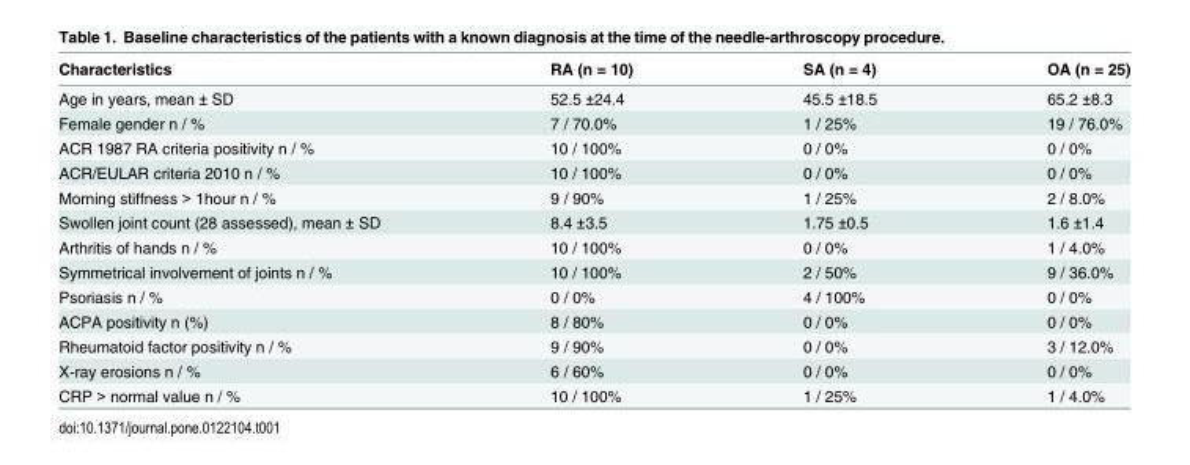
<table><thead><tr><td>Characteristics</td><td>RA (n = 10)</td><td>SA (n = 4)</td><td>OA (n = 25)</td></tr></thead><tbody><tr><td>Age in years, mean ± SD</td><td>52.5 ±24.4</td><td>45.5 ±18.5</td><td>65.2 ±8.3</td></tr><tr><td>Female gender n / %</td><td>7 / 70.0%</td><td>1 / 25%</td><td>19 / 76.0%</td></tr><tr><td>ACR 1987 RA criteria positivity n / %</td><td>10 / 100%</td><td>0 / 0%</td><td>0 / 0%</td></tr><tr><td>ACR/EULAR criteria 2010 n / %</td><td>10 / 100%</td><td>0 / 0%</td><td>0 / 0%</td></tr><tr><td>Morning stiffness &gt; 1hour n / %</td><td>9 / 90%</td><td>1 / 25%</td><td>2 / 8.0%</td></tr><tr><td>Swollen joint count (28 assessed), mean ± SD</td><td>8.4 ±3.5</td><td>1.75 ±0.5</td><td>1.6 ±1.4</td></tr><tr><td>Arthritis of hands n / %</td><td>10 / 100%</td><td>0 / 0%</td><td>1 / 4.0%</td></tr><tr><td>Symmetrical involvement of joints n / %</td><td>10 / 100%</td><td>2 / 50%</td><td>9 / 36.0%</td></tr><tr><td>Psoriasis n / %</td><td>0 / 0%</td><td>4 / 100%</td><td>0 / 0%</td></tr><tr><td>ACPA positivity n (%)</td><td>8 / 80%</td><td>0 / 0%</td><td>0 / 0%</td></tr><tr><td>Rheumatoid factor positivity n / %</td><td>9 / 90%</td><td>0 / 0%</td><td>3 / 12.0%</td></tr><tr><td>X-ray erosions n / %</td><td>6 / 60%</td><td>0 / 0%</td><td>0 / 0%</td></tr><tr><td>CRP &gt; normal value n / %</td><td>10 / 100%</td><td>1 / 25%</td><td>1 / 4.0%</td></tr></tbody></table>